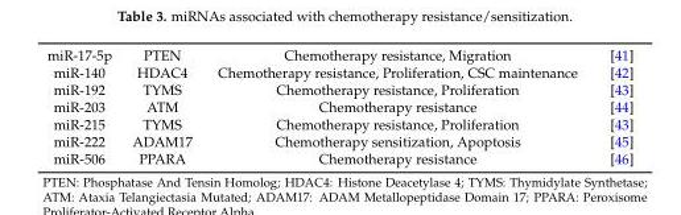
<table><tbody><tr><td>miR-17-5p</td><td>PTEN</td><td>Chemotherapy resistance, Migration</td><td>[41]</td></tr><tr><td>miR-140</td><td>HDAC4</td><td>Chemotherapy resistance, Proliferation, CSC maintenance</td><td>[42]</td></tr><tr><td>miR-192</td><td>TYMS</td><td>Chemotherapy resistance, Proliferation</td><td>[43]</td></tr><tr><td>miR-203</td><td>ATM</td><td>Chemotherapy resistance</td><td>[44]</td></tr><tr><td>miR-215</td><td>TYMS</td><td>Chemotherapy resistance, Proliferation</td><td>[43]</td></tr><tr><td>miR-222</td><td>ADAM17</td><td>Chemotherapy sensitization, Apoptosis</td><td>[45]</td></tr><tr><td>miR-506</td><td>PPARA</td><td>Chemotherapy resistance</td><td>[46]</td></tr></tbody></table>